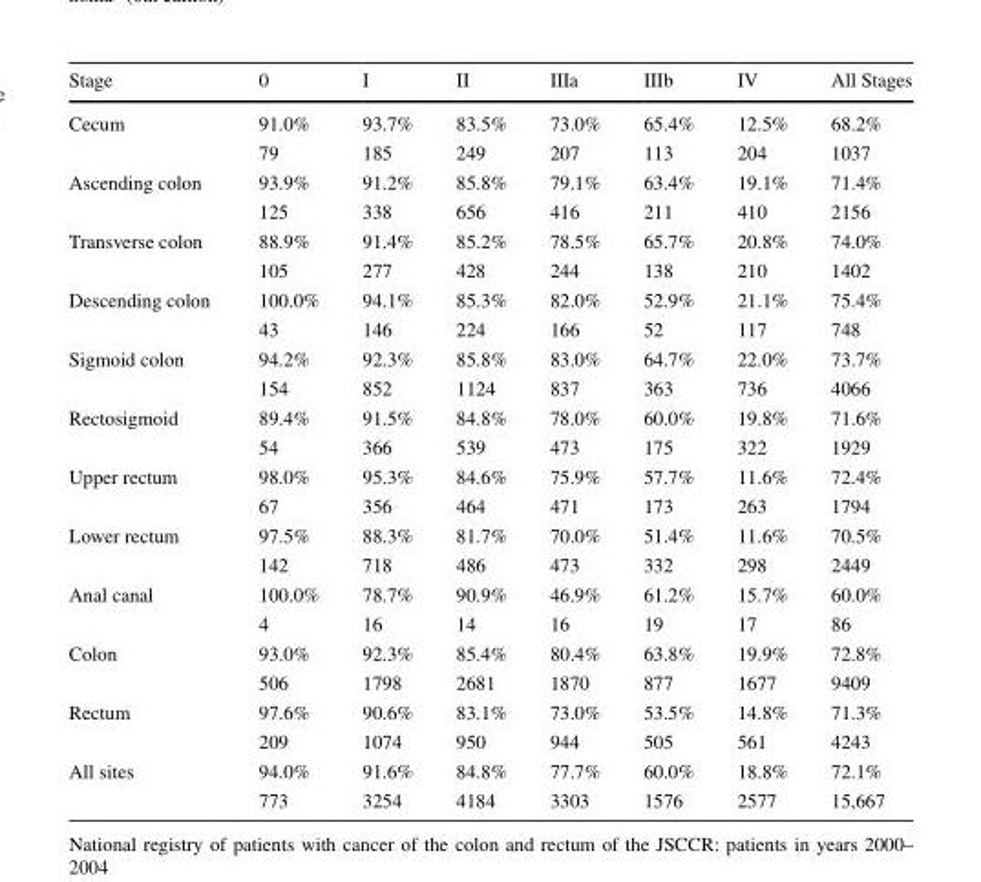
<table><thead><tr><td>Stage</td><td>0</td><td>I</td><td>II</td><td>IIIa</td><td>IIIb</td><td>IV</td><td>All Stages</td></tr></thead><tbody><tr><td rowspan="2">Cecum</td><td>91.0%</td><td>93.7%</td><td>83.5%</td><td>73.0%</td><td>65.4%</td><td>12.5%</td><td>68.2%</td></tr><tr><td>79</td><td>185</td><td>249</td><td>207</td><td>113</td><td>204</td><td>1037</td></tr><tr><td rowspan="2">Ascending colon</td><td>93.9%</td><td>91.2%</td><td>85.8%</td><td>79.1%</td><td>63.4%</td><td>19.1%</td><td>71.4%</td></tr><tr><td>125</td><td>338</td><td>656</td><td>416</td><td>211</td><td>410</td><td>2156</td></tr><tr><td rowspan="2">Transverse colon</td><td>88.9%</td><td>91.4%</td><td>85.2%</td><td>78.5%</td><td>65.7%</td><td>20.8%</td><td>74.0%</td></tr><tr><td>105</td><td>277</td><td>428</td><td>244</td><td>138</td><td>210</td><td>1402</td></tr><tr><td rowspan="2">Descending colon</td><td>100.0%</td><td>94.1%</td><td>85.3%</td><td>82.0%</td><td>52.9%</td><td>21.1%</td><td>75.4%</td></tr><tr><td>43</td><td>146</td><td>224</td><td>166</td><td>52</td><td>117</td><td>748</td></tr><tr><td rowspan="2">Sigmoid colon</td><td>94.2%</td><td>92.3%</td><td>85.8%</td><td>83.0%</td><td>64.7%</td><td>22.0%</td><td>73.7%</td></tr><tr><td>154</td><td>852</td><td>1124</td><td>837</td><td>363</td><td>736</td><td>4066</td></tr><tr><td rowspan="2">Rectosigmoid</td><td>89.4%</td><td>91.5%</td><td>84.8%</td><td>78.0%</td><td>60.0%</td><td>19.8%</td><td>71.6%</td></tr><tr><td>54</td><td>366</td><td>539</td><td>473</td><td>175</td><td>322</td><td>1929</td></tr><tr><td rowspan="2">Upper rectum</td><td>98.0%</td><td>95.3%</td><td>84.6%</td><td>75.9%</td><td>57.7%</td><td>11.6%</td><td>72.4%</td></tr><tr><td>67</td><td>356</td><td>464</td><td>471</td><td>173</td><td>263</td><td>1794</td></tr><tr><td rowspan="2">Lower rectum</td><td>97.5%</td><td>88.3%</td><td>81.7%</td><td>70.0%</td><td>51.4%</td><td>11.6%</td><td>70.5%</td></tr><tr><td>142</td><td>718</td><td>486</td><td>473</td><td>332</td><td>298</td><td>2449</td></tr><tr><td rowspan="2">Anal canal</td><td>100.0%</td><td>78.7%</td><td>90.9%</td><td>46.9%</td><td>61.2%</td><td>15.7%</td><td>60.0%</td></tr><tr><td>4</td><td>16</td><td>14</td><td>16</td><td>19</td><td>17</td><td>86</td></tr><tr><td rowspan="2">Colon</td><td>93.0%</td><td>92.3%</td><td>85.4%</td><td>80.4%</td><td>63.8%</td><td>19.9%</td><td>72.8%</td></tr><tr><td>506</td><td>1798</td><td>2681</td><td>1870</td><td>877</td><td>1677</td><td>9409</td></tr><tr><td rowspan="2">Rectum</td><td>97.6%</td><td>90.6%</td><td>83.1%</td><td>73.0%</td><td>53.5%</td><td>14.8%</td><td>71.3%</td></tr><tr><td>209</td><td>1074</td><td>950</td><td>944</td><td>505</td><td>561</td><td>4243</td></tr><tr><td rowspan="2">All sites</td><td>94.0%</td><td>91.6%</td><td>84.8%</td><td>77.7%</td><td>60.0%</td><td>18.8%</td><td>72.1%</td></tr><tr><td>773</td><td>3254</td><td>4184</td><td>3303</td><td>1576</td><td>2577</td><td>15,667</td></tr></tbody></table>